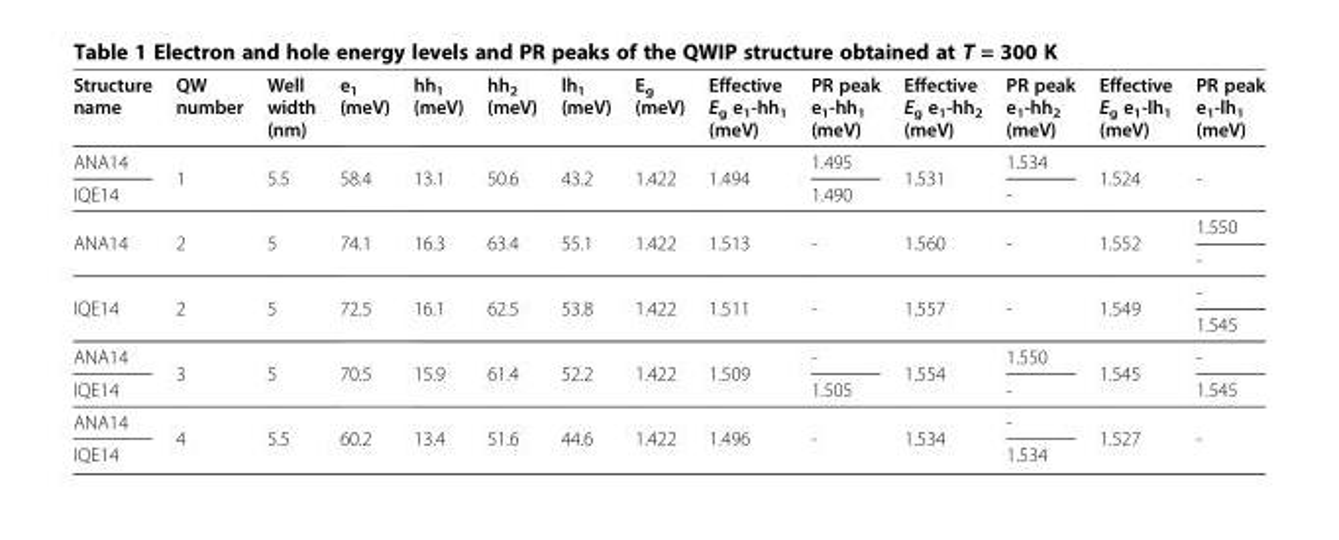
<table><thead><tr><td>Structure name</td><td>QW number</td><td>Well width (nm)</td><td>e<sub>1</sub> (meV)</td><td>hh<sub>1</sub> (meV)</td><td>hh<sub>2</sub> (meV)</td><td>lh<sub>1</sub> (meV)</td><td>E<sub>g</sub> (meV)</td><td>Effective E<sub>g</sub> e<sub>1</sub>-hh<sub>1</sub> (meV)</td><td>PR peak e<sub>1</sub>-hh<sub>1</sub> (meV)</td><td>Effective E<sub>g</sub> e<sub>1</sub>-hh<sub>2</sub> (meV)</td><td>PR peak e<sub>1</sub>-hh<sub>2</sub> (meV)</td><td>Effective E<sub>g</sub> e<sub>1</sub>-lh<sub>1</sub> (meV)</td><td>PR peak e<sub>1</sub>-lh<sub>1</sub> (meV)</td></tr></thead><tbody><tr><td>ANA14</td><td rowspan="2">1</td><td rowspan="2">5.5</td><td rowspan="2">58.4</td><td rowspan="2">13.1</td><td rowspan="2">50.6</td><td rowspan="2">43.2</td><td rowspan="2">1.422</td><td rowspan="2">1.494</td><td>1.495</td><td rowspan="2">1.531</td><td>1.534</td><td rowspan="2">1.524</td><td rowspan="2">-</td></tr><tr><td>IQE14</td><td>1.490</td><td>-</td></tr><tr><td rowspan="2">ANA14</td><td rowspan="2">2</td><td rowspan="2">5</td><td rowspan="2">74.1</td><td rowspan="2">16.3</td><td rowspan="2">63.4</td><td rowspan="2">55.1</td><td rowspan="2">1.422</td><td rowspan="2">1.513</td><td rowspan="2">-</td><td rowspan="2">1.560</td><td rowspan="2">-</td><td rowspan="2">1.552</td><td>1.550</td></tr><tr><td>-</td></tr><tr><td rowspan="2">IQE14</td><td rowspan="2">2</td><td rowspan="2">5</td><td rowspan="2">72.5</td><td rowspan="2">16.1</td><td rowspan="2">62.5</td><td rowspan="2">53.8</td><td rowspan="2">1.422</td><td rowspan="2">1.511</td><td rowspan="2">-</td><td rowspan="2">1.557</td><td rowspan="2">-</td><td rowspan="2">1.549</td><td>-</td></tr><tr><td>1.545</td></tr><tr><td>ANA14</td><td rowspan="2">3</td><td rowspan="2">5</td><td rowspan="2">70.5</td><td rowspan="2">15.9</td><td rowspan="2">61.4</td><td rowspan="2">52.2</td><td rowspan="2">1.422</td><td rowspan="2">1.509</td><td>-</td><td rowspan="2">1.554</td><td>1.550</td><td rowspan="2">1.545</td><td>-</td></tr><tr><td>IQE14</td><td>1.505</td><td>-</td><td>1.545</td></tr><tr><td>ANA14</td><td rowspan="2">4</td><td rowspan="2">5.5</td><td rowspan="2">60.2</td><td rowspan="2">13.4</td><td rowspan="2">51.6</td><td rowspan="2">44.6</td><td rowspan="2">1.422</td><td rowspan="2">1.496</td><td rowspan="2">-</td><td rowspan="2">1.534</td><td>-</td><td rowspan="2">1.527</td><td rowspan="2">-</td></tr><tr><td>IQE14</td><td>1.534</td></tr></tbody></table>